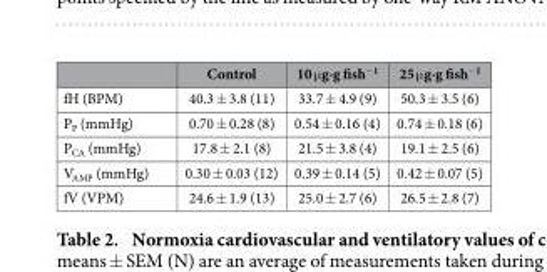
<table><thead><tr><td></td><td>Control</td><td>10 μg·g fish<sup>−1</sup></td><td>25 μg·g fish<sup>−1</sup></td></tr></thead><tbody><tr><td>fH (BPM)</td><td>40.3 ± 3.8 (11)</td><td>33.7 ± 4.9 (9)</td><td>50.3 ± 3.5 (6)</td></tr><tr><td>P<sub>P</sub> (mmHg)</td><td>0.70 ± 0.28 (8)</td><td>0.54 ± 0.16 (4)</td><td>0.74 ± 0.18 (6)</td></tr><tr><td>P<sub>CA</sub> (mmHg)</td><td>17.8 ± 2.1 (8)</td><td>21.5 ± 3.8 (4)</td><td>19.1 ± 2.5 (6)</td></tr><tr><td>V<sub>AMP</sub> (mmHg)</td><td>0.30 ± 0.03 (12)</td><td>0.39 ± 0.14 (5)</td><td>0.42 ± 0.07 (5)</td></tr><tr><td>fV (VPM)</td><td>24.6 ± 1.9 (13)</td><td>25.0 ± 2.7 (6)</td><td>26.5 ± 2.8 (7)</td></tr></tbody></table>